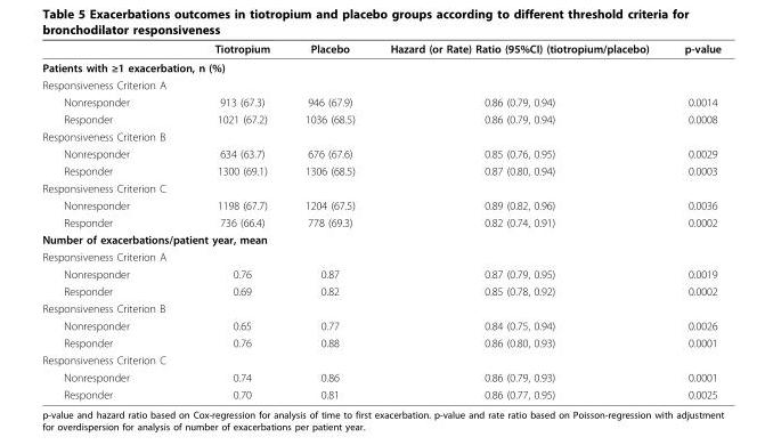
<table><thead><tr><td></td><td>Tiotropium</td><td>Placebo</td><td>Hazard (or Rate) Ratio (95%CI) (tiotropium/placebo)</td><td>p-value</td></tr></thead><tbody><tr><td colspan="5">Patients with ≥1 exacerbation, n (%)</td></tr><tr><td colspan="5">Responsiveness Criterion A</td></tr><tr><td>Nonresponder</td><td>913 (67.3)</td><td>946 (67.9)</td><td>0.86 (0.79, 0.94)</td><td>0.0014</td></tr><tr><td>Responder</td><td>1021 (67.2)</td><td>1036 (68.5)</td><td>0.86 (0.79, 0.94)</td><td>0.0008</td></tr><tr><td colspan="5">Responsiveness Criterion B</td></tr><tr><td>Nonresponder</td><td>634 (63.7)</td><td>676 (67.6)</td><td>0.85 (0.76, 0.95)</td><td>0.0029</td></tr><tr><td>Responder</td><td>1300 (69.1)</td><td>1306 (68.5)</td><td>0.87 (0.80, 0.94)</td><td>0.0003</td></tr><tr><td colspan="5">Responsiveness Criterion C</td></tr><tr><td>Nonresponder</td><td>1198 (67.7)</td><td>1204 (67.5)</td><td>0.89 (0.82, 0.96)</td><td>0.0036</td></tr><tr><td>Responder</td><td>736 (66.4)</td><td>778 (69.3)</td><td>0.82 (0.74, 0.91)</td><td>0.0002</td></tr><tr><td colspan="5">Number of exacerbations/patient year, mean</td></tr><tr><td colspan="5">Responsiveness Criterion A</td></tr><tr><td>Nonresponder</td><td>0.76</td><td>0.87</td><td>0.87 (0.79, 0.95)</td><td>0.0019</td></tr><tr><td>Responder</td><td>0.69</td><td>0.82</td><td>0.85 (0.78, 0.92)</td><td>0.0002</td></tr><tr><td colspan="5">Responsiveness Criterion B</td></tr><tr><td>Nonresponder</td><td>0.65</td><td>0.77</td><td>0.84 (0.75, 0.94)</td><td>0.0026</td></tr><tr><td>Responder</td><td>0.76</td><td>0.88</td><td>0.86 (0.80, 0.93)</td><td>0.0001</td></tr><tr><td colspan="5">Responsiveness Criterion C</td></tr><tr><td>Nonresponder</td><td>0.74</td><td>0.86</td><td>0.86 (0.79, 0.93)</td><td>0.0001</td></tr><tr><td>Responder</td><td>0.70</td><td>0.81</td><td>0.86 (0.77, 0.95)</td><td>0.0025</td></tr></tbody></table>